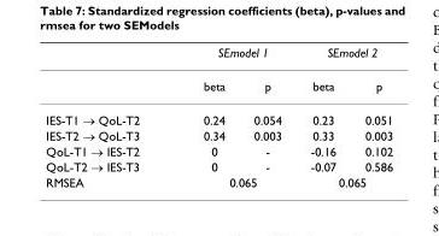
<table><thead><tr><td rowspan="2"></td><td colspan="2">SEmodel 1</td><td colspan="2">SEmodel 2</td></tr><tr><td>beta</td><td>p</td><td>beta</td><td>p</td></tr></thead><tbody><tr><td>IES-T1 → QoL-T2</td><td>0.24</td><td>0.054</td><td>0.23</td><td>0.051</td></tr><tr><td>IES-T2 → QoL-T3</td><td>0.34</td><td>0.003</td><td>0.33</td><td>0.003</td></tr><tr><td>QoL-T1 → IES-T2</td><td>0</td><td>-</td><td>-0.16</td><td>0.102</td></tr><tr><td>QoL-T2 → IES-T3</td><td>0</td><td>-</td><td>-0.07</td><td>0.586</td></tr><tr><td>RMSEA</td><td colspan="2">0.065</td><td colspan="2">0.065</td></tr></tbody></table>